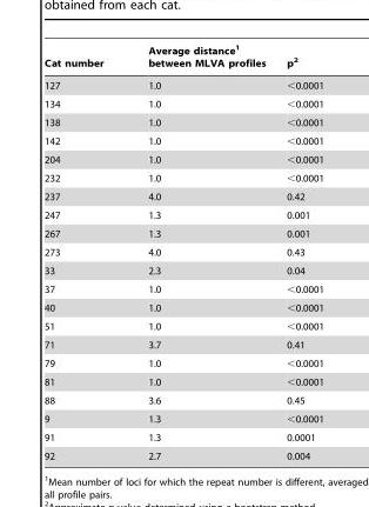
<table><thead><tr><td>Cat number</td><td>Average distance<sup>1</sup> between MLVA profiles</td><td>p<sup>2</sup></td></tr></thead><tbody><tr><td>127</td><td>1.0</td><td>&lt;0.0001</td></tr><tr><td>134</td><td>1.0</td><td>&lt;0.0001</td></tr><tr><td>138</td><td>1.0</td><td>&lt;0.0001</td></tr><tr><td>142</td><td>1.0</td><td>&lt;0.0001</td></tr><tr><td>204</td><td>1.0</td><td>&lt;0.0001</td></tr><tr><td>232</td><td>1.0</td><td>&lt;0.0001</td></tr><tr><td>237</td><td>4.0</td><td>0.42</td></tr><tr><td>247</td><td>1.3</td><td>0.001</td></tr><tr><td>267</td><td>1.3</td><td>0.001</td></tr><tr><td>273</td><td>4.0</td><td>0.43</td></tr><tr><td>33</td><td>2.3</td><td>0.04</td></tr><tr><td>37</td><td>1.0</td><td>&lt;0.0001</td></tr><tr><td>40</td><td>1.0</td><td>&lt;0.0001</td></tr><tr><td>51</td><td>1.0</td><td>&lt;0.0001</td></tr><tr><td>71</td><td>3.7</td><td>0.41</td></tr><tr><td>79</td><td>1.0</td><td>&lt;0.0001</td></tr><tr><td>81</td><td>1.0</td><td>&lt;0.0001</td></tr><tr><td>88</td><td>3.6</td><td>0.45</td></tr><tr><td>9</td><td>1.3</td><td>&lt;0.0001</td></tr><tr><td>91</td><td>1.3</td><td>0.0001</td></tr><tr><td>92</td><td>2.7</td><td>0.004</td></tr></tbody></table>